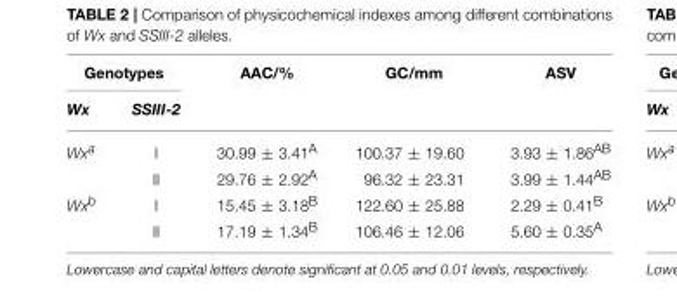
<table><thead><tr><td colspan="2">Genotypes</td><td rowspan="2">AAC/%</td><td rowspan="2">GC/mm</td><td rowspan="2">ASV</td></tr><tr><td>Wx</td><td>SSIII-2</td></tr></thead><tbody><tr><td rowspan="2">Wxa</td><td>I</td><td>30.99 ± 3.41<sup>A</sup></td><td>100.37 ± 19.60</td><td>3.93 ± 1.86<sup>AB</sup></td></tr><tr><td>II</td><td>29.76 ± 2.92<sup>A</sup></td><td>96.32 ± 23.31</td><td>3.99 ± 1.44<sup>AB</sup></td></tr><tr><td rowspan="2">Wxb</td><td>I</td><td>15.45 ± 3.18<sup>B</sup></td><td>122.60 ± 25.88</td><td>2.29 ± 0.41<sup>B</sup></td></tr><tr><td>II</td><td>17.19 ± 1.34<sup>B</sup></td><td>106.46 ± 12.06</td><td>5.60 ± 0.35<sup>A</sup></td></tr></tbody></table>